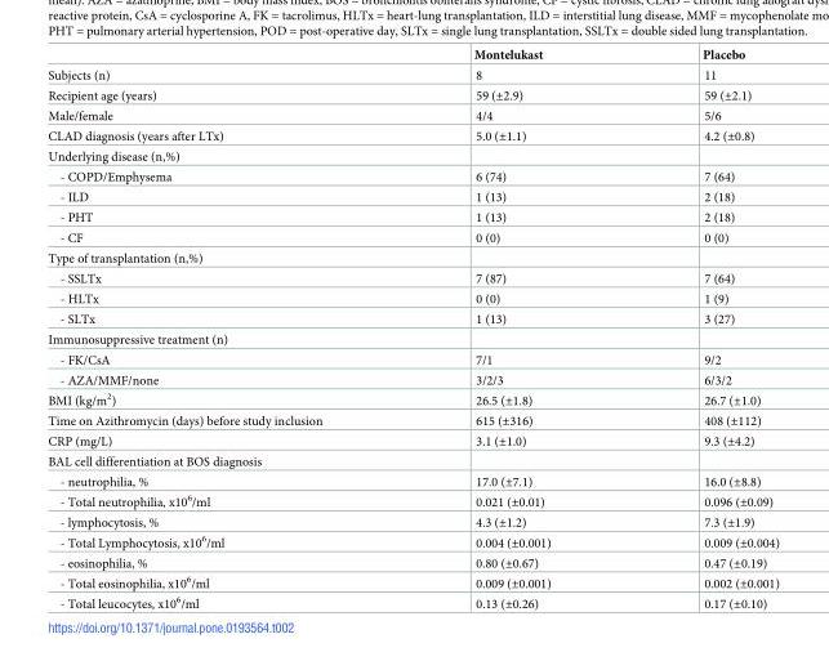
<table><thead><tr><td></td><td>Montelukast</td><td>Placebo</td></tr></thead><tbody><tr><td>Subjects (n)</td><td>8</td><td>11</td></tr><tr><td>Recipient age (years)</td><td>59 (±2.9)</td><td>59 (±2.1)</td></tr><tr><td>Male/female</td><td>4/4</td><td>5/6</td></tr><tr><td>CLAD diagnosis (years after LTx)</td><td>5.0 (±1.1)</td><td>4.2 (±0.8)</td></tr><tr><td colspan="3">Underlying disease (n,%)</td></tr><tr><td>- COPD/Emphysema</td><td>6 (74)</td><td>7 (64)</td></tr><tr><td>- ILD</td><td>1 (13)</td><td>2 (18)</td></tr><tr><td>- PHT</td><td>1 (13)</td><td>2 (18)</td></tr><tr><td>- CF</td><td>0 (0)</td><td>0 (0)</td></tr><tr><td colspan="3">Type of transplantation (n,%)</td></tr><tr><td>- SSLTx</td><td>7 (87)</td><td>7 (64)</td></tr><tr><td>- HLTx</td><td>0 (0)</td><td>1 (9)</td></tr><tr><td>- SLTx</td><td>1 (13)</td><td>3 (27)</td></tr><tr><td colspan="3">Immunosuppressive treatment (n)</td></tr><tr><td>- FK/CsA</td><td>7/1</td><td>9/2</td></tr><tr><td>- AZA/MMF/none</td><td>3/2/3</td><td>6/3/2</td></tr><tr><td>BMI (kg/m<sup>2</sup>)</td><td>26.5 (±1.8)</td><td>26.7 (±1.0)</td></tr><tr><td>Time on Azithromycin (days) before study inclusion</td><td>615 (±316)</td><td>408 (±112)</td></tr><tr><td>CRP (mg/L)</td><td>3.1 (±1.0)</td><td>9.3 (±4.2)</td></tr><tr><td colspan="3">BAL cell differentiation at BOS diagnosis</td></tr><tr><td>- neutrophilia, %</td><td>17.0 (±7.1)</td><td>16.0 (±8.8)</td></tr><tr><td>- Total neutrophilia, x10<sup>6</sup>/ml</td><td>0.021 (±0.01)</td><td>0.096 (±0.09)</td></tr><tr><td>- lymphocytosis, %</td><td>4.3 (±1.2)</td><td>7.3 (±1.9)</td></tr><tr><td>- Total Lymphocytosis, x10<sup>6</sup>/ml</td><td>0.004 (±0.001)</td><td>0.009 (±0.004)</td></tr><tr><td>- eosinophilia, %</td><td>0.80 (±0.67)</td><td>0.47 (±0.19)</td></tr><tr><td>- Total eosinophilia, x10<sup>6</sup>/ml</td><td>0.009 (±0.001)</td><td>0.002 (±0.001)</td></tr><tr><td>- Total leucocytes, x10<sup>6</sup>/ml</td><td>0.13 (±0.26)</td><td>0.17 (±0.10)</td></tr></tbody></table>